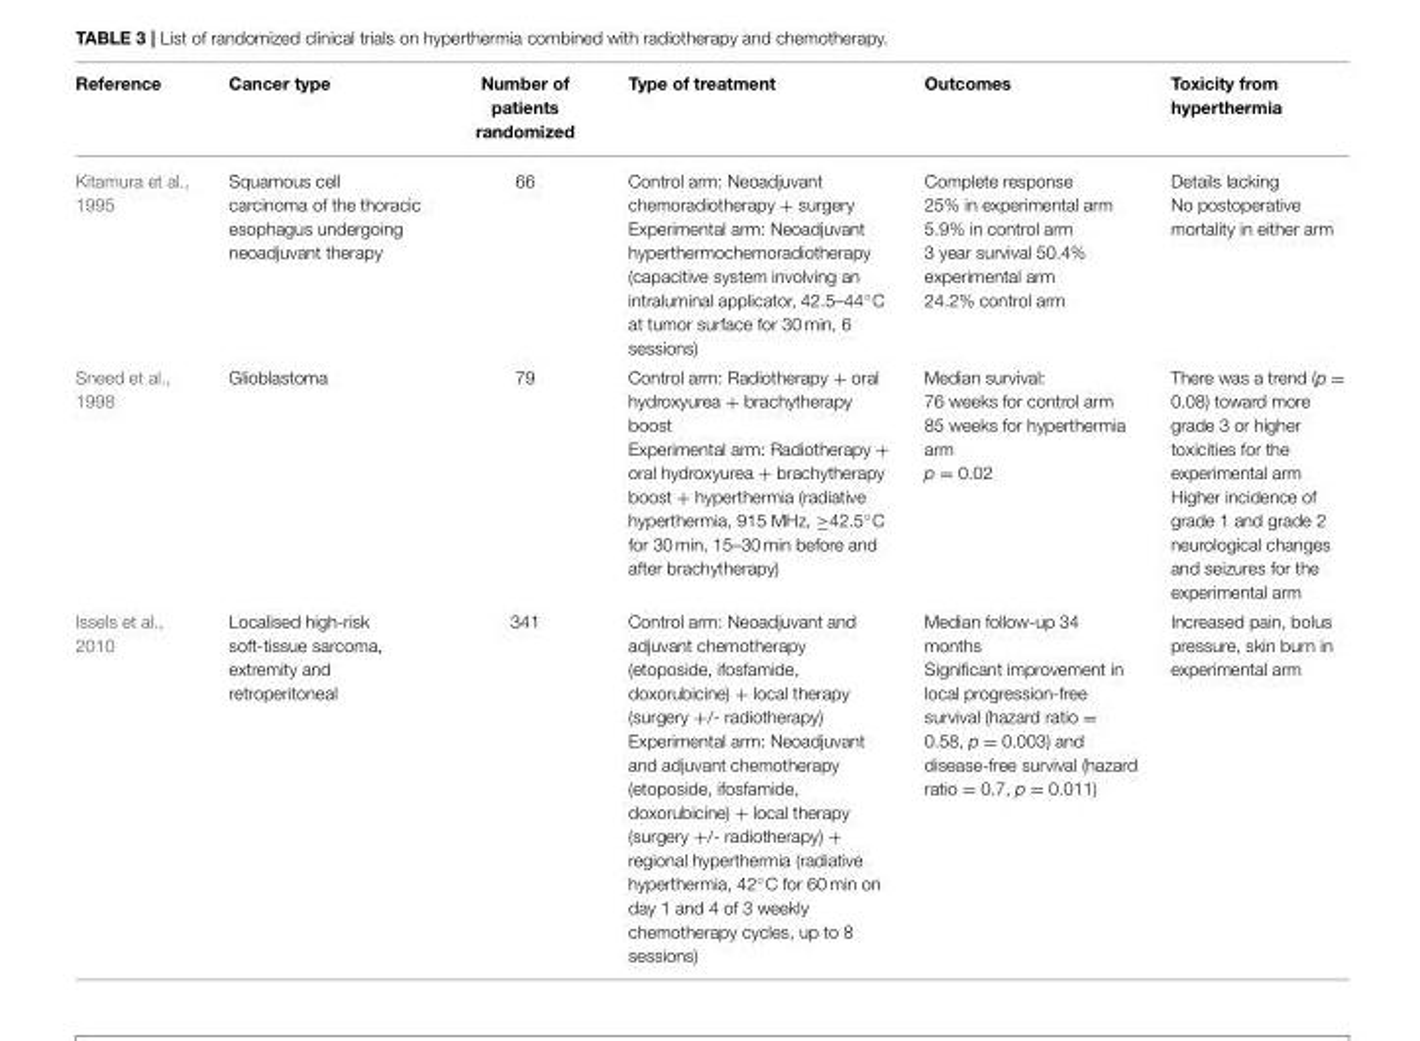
<table><thead><tr><td>Reference</td><td>Cancer type</td><td>Number of patients randomized</td><td>Type of treatment</td><td>Outcomes</td><td>Toxicity from hyperthermia</td></tr></thead><tbody><tr><td>Kitamura et al., 1995</td><td>Squamous cell carcinoma of the thoracic esophagus undergoing neoadjuvant therapy</td><td>66</td><td>Control arm: Neoadjuvant chemoradiotherapy + surgery Experimental arm: Neoadjuvant hyperthermochemoradiotherapy (capacitive system involving an intraluminal applicator, 42.5–44◦C at tumor surface for 30 min, 6 sessions)</td><td>Complete response 25% in experimental arm 5.9% in control arm 3 year survival 50.4% experimental arm 24.2% control arm</td><td>Details lacking No postoperative mortality in either arm</td></tr><tr><td>Sneed et al., 1998</td><td>Glioblastoma</td><td>79</td><td>Control arm: Radiotherapy + oral hydroxyurea + brachytherapy boost Experimental arm: Radiotherapy + oral hydroxyurea + brachytherapy boost + hyperthermia (radiative hyperthermia, 915 MHz, ≥42.5◦C for 30 min, 15–30 min before and after brachytherapy)</td><td>Median survival: 76 weeks for control arm 85 weeks for hyperthermia arm p = 0.02</td><td>There was a trend (p = 0.08) toward more grade 3 or higher toxicities for the experimental arm Higher incidence of grade 1 and grade 2 neurological changes and seizures for the experimental arm</td></tr><tr><td>Issels et al., 2010</td><td>Localised high-risk soft-tissue sarcoma, extremity and retroperitoneal</td><td>341</td><td>Control arm: Neoadjuvant and adjuvant chemotherapy (etoposide, ifosfamide, doxorubicine) + local therapy (surgery +/- radiotherapy) Experimental arm: Neoadjuvant and adjuvant chemotherapy (etoposide, ifosfamide, doxorubicine) + local therapy (surgery +/- radiotherapy) + regional hyperthermia (radiative hyperthermia, 42◦C for 60 min on day 1 and 4 of 3 weekly chemotherapy cycles, up to 8 sessions)</td><td>Median follow-up 34 months Significant improvement in local progression-free survival (hazard ratio = 0.58, p = 0.003) and disease-free survival (hazard ratio = 0.7, p = 0.011)</td><td>Increased pain, bolus pressure, skin burn in experimental arm</td></tr></tbody></table>